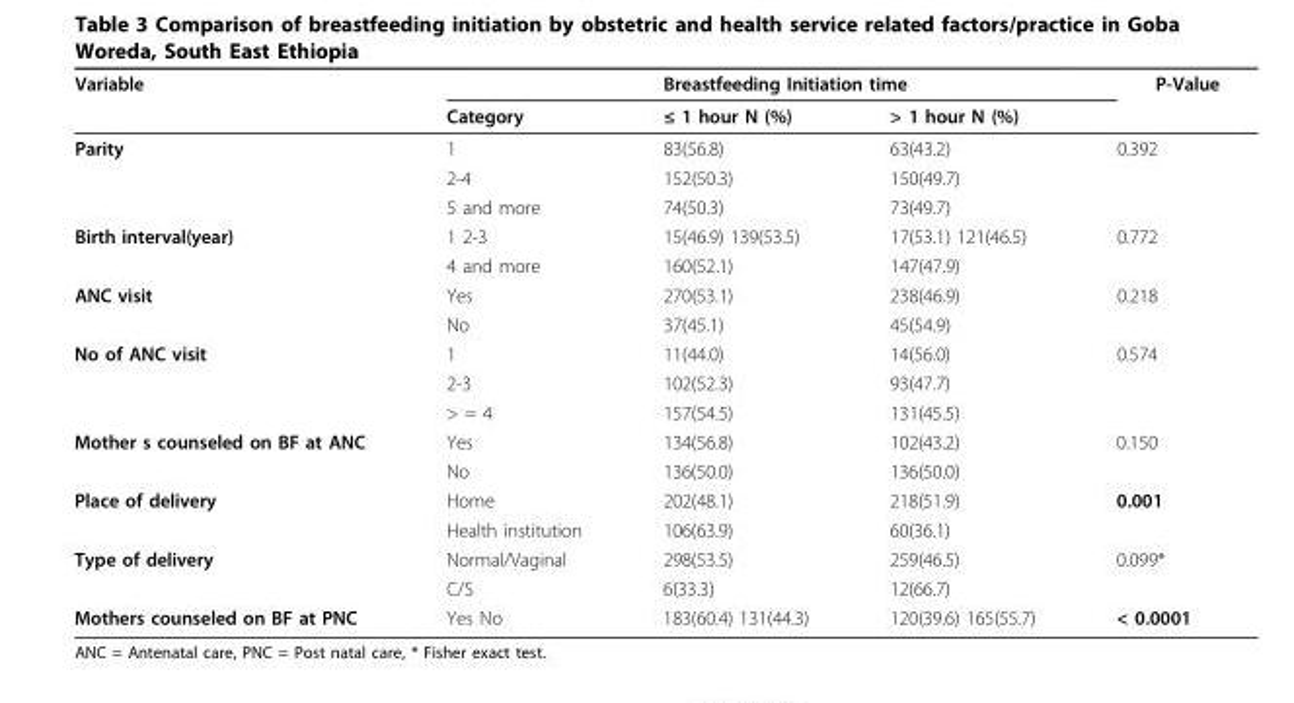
<table><thead><tr><td rowspan="2">Variable</td><td rowspan="2">Category</td><td colspan="2">Breastfeeding Initiation time</td><td rowspan="2">P-Value</td></tr><tr><td>≤ 1 hour N (%)</td><td>&gt; 1 hour N (%)</td></tr></thead><tbody><tr><td rowspan="3">Parity</td><td>1</td><td>83(56.8)</td><td>63(43.2)</td><td>0.392</td></tr><tr><td>2-4</td><td>152(50.3)</td><td>150(49.7)</td><td></td></tr><tr><td>5 and more</td><td>74(50.3)</td><td>73(49.7)</td><td></td></tr><tr><td rowspan="2">Birth interval(year)</td><td>1 2-3</td><td>15(46.9) 139(53.5)</td><td>17(53.1) 121(46.5)</td><td>0.772</td></tr><tr><td>4 and more</td><td>160(52.1)</td><td>147(47.9)</td><td></td></tr><tr><td rowspan="2">ANC visit</td><td>Yes</td><td>270(53.1)</td><td>238(46.9)</td><td>0.218</td></tr><tr><td>No</td><td>37(45.1)</td><td>45(54.9)</td><td></td></tr><tr><td rowspan="3">No of ANC visit</td><td>1</td><td>11(44.0)</td><td>14(56.0)</td><td>0.574</td></tr><tr><td>2-3</td><td>102(52.3)</td><td>93(47.7)</td><td></td></tr><tr><td>&gt; = 4</td><td>157(54.5)</td><td>131(45.5)</td><td></td></tr><tr><td rowspan="2">Mother s counseled on BF at ANC</td><td>Yes</td><td>134(56.8)</td><td>102(43.2)</td><td>0.150</td></tr><tr><td>No</td><td>136(50.0)</td><td>136(50.0)</td><td></td></tr><tr><td rowspan="2">Place of delivery</td><td>Home</td><td>202(48.1)</td><td>218(51.9)</td><td>0.001</td></tr><tr><td>Health institution</td><td>106(63.9)</td><td>60(36.1)</td><td></td></tr><tr><td rowspan="2">Type of delivery</td><td>Normal/Vaginal</td><td>298(53.5)</td><td>259(46.5)</td><td>0.099*</td></tr><tr><td>C/S</td><td>6(33.3)</td><td>12(66.7)</td><td></td></tr><tr><td>Mothers counseled on BF at PNC</td><td>Yes No</td><td>183(60.4) 131(44.3)</td><td>120(39.6) 165(55.7)</td><td>&lt; 0.0001</td></tr></tbody></table>